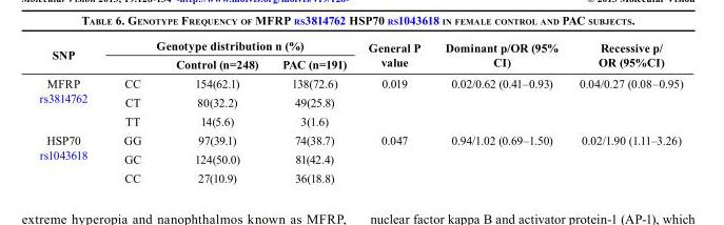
<table><thead><tr><td rowspan="2">SNP</td><td colspan="3">Genotype distribution n (%)</td><td rowspan="2">General P value</td><td rowspan="2">Dominant p/OR (95% CI)</td><td rowspan="2">Recessive p/ OR (95%CI)</td></tr><tr><td></td><td>Control (n=248)</td><td>PAC (n=191)</td></tr></thead><tbody><tr><td rowspan="3">MFRP rs3814762</td><td>CC</td><td>154(62.1)</td><td>138(72.6)</td><td rowspan="3">0.019</td><td rowspan="3">0.02/0.62 (0.41–0.93)</td><td rowspan="3">0.04/0.27 (0.08–0.95)</td></tr><tr><td>CT</td><td>80(32.2)</td><td>49(25.8)</td></tr><tr><td>TT</td><td>14(5.6)</td><td>3(1.6)</td></tr><tr><td rowspan="3">HSP70 rs1043618</td><td>GG</td><td>97(39.1)</td><td>74(38.7)</td><td rowspan="3">0.047</td><td rowspan="3">0.94/1.02 (0.69–1.50)</td><td rowspan="3">0.02/1.90 (1.11–3.26)</td></tr><tr><td>GC</td><td>124(50.0)</td><td>81(42.4)</td></tr><tr><td>CC</td><td>27(10.9)</td><td>36(18.8)</td></tr></tbody></table>